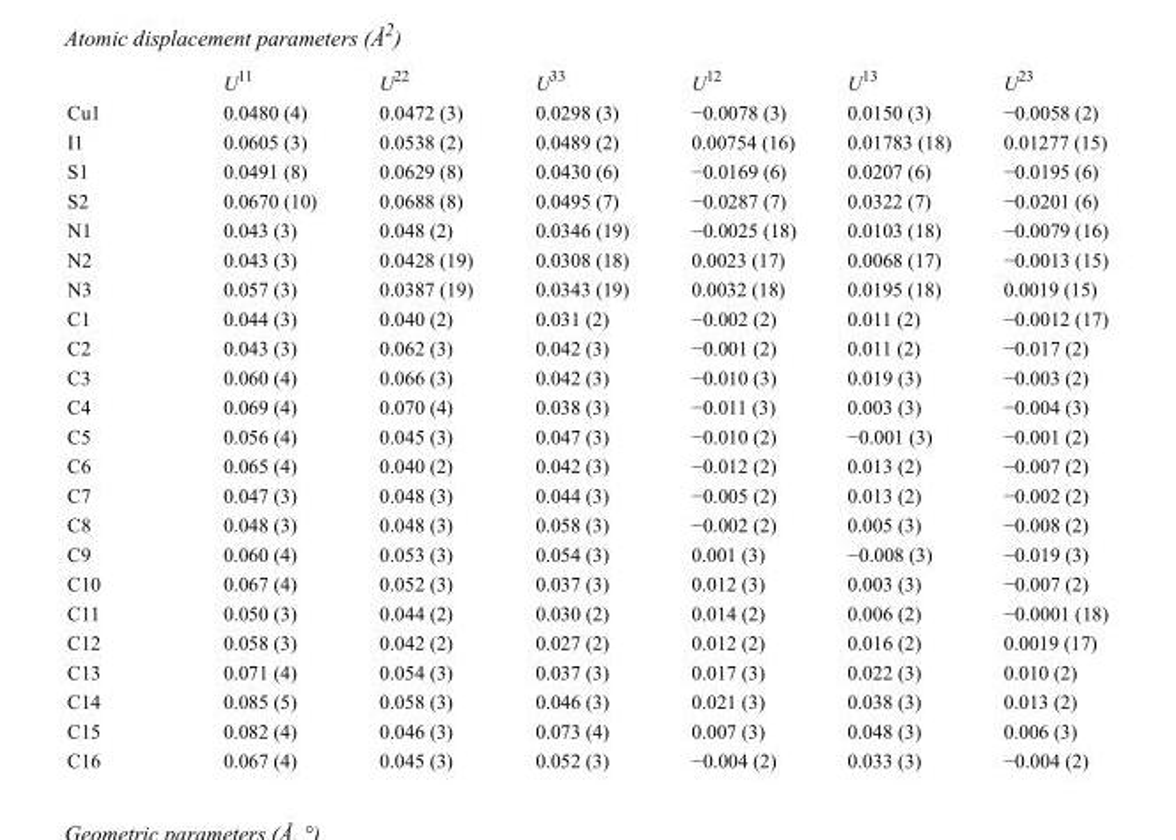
<table><thead><tr><td></td><td>U<sup>11</sup></td><td>U<sup>22</sup></td><td>U<sup>33</sup></td><td>U<sup>12</sup></td><td>U<sup>13</sup></td><td>U<sup>23</sup></td></tr></thead><tbody><tr><td>Cu1</td><td>0.0480 (4)</td><td>0.0472 (3)</td><td>0.0298 (3)</td><td>−0.0078 (3)</td><td>0.0150 (3)</td><td>−0.0058 (2)</td></tr><tr><td>I1</td><td>0.0605 (3)</td><td>0.0538 (2)</td><td>0.0489 (2)</td><td>0.00754 (16)</td><td>0.01783 (18)</td><td>0.01277 (15)</td></tr><tr><td>S1</td><td>0.0491 (8)</td><td>0.0629 (8)</td><td>0.0430 (6)</td><td>−0.0169 (6)</td><td>0.0207 (6)</td><td>−0.0195 (6)</td></tr><tr><td>S2</td><td>0.0670 (10)</td><td>0.0688 (8)</td><td>0.0495 (7)</td><td>−0.0287 (7)</td><td>0.0322 (7)</td><td>−0.0201 (6)</td></tr><tr><td>N1</td><td>0.043 (3)</td><td>0.048 (2)</td><td>0.0346 (19)</td><td>−0.0025 (18)</td><td>0.0103 (18)</td><td>−0.0079 (16)</td></tr><tr><td>N2</td><td>0.043 (3)</td><td>0.0428 (19)</td><td>0.0308 (18)</td><td>0.0023 (17)</td><td>0.0068 (17)</td><td>−0.0013 (15)</td></tr><tr><td>N3</td><td>0.057 (3)</td><td>0.0387 (19)</td><td>0.0343 (19)</td><td>0.0032 (18)</td><td>0.0195 (18)</td><td>0.0019 (15)</td></tr><tr><td>C1</td><td>0.044 (3)</td><td>0.040 (2)</td><td>0.031 (2)</td><td>−0.002 (2)</td><td>0.011 (2)</td><td>−0.0012 (17)</td></tr><tr><td>C2</td><td>0.043 (3)</td><td>0.062 (3)</td><td>0.042 (3)</td><td>−0.001 (2)</td><td>0.011 (2)</td><td>−0.017 (2)</td></tr><tr><td>C3</td><td>0.060 (4)</td><td>0.066 (3)</td><td>0.042 (3)</td><td>−0.010 (3)</td><td>0.019 (3)</td><td>−0.003 (2)</td></tr><tr><td>C4</td><td>0.069 (4)</td><td>0.070 (4)</td><td>0.038 (3)</td><td>−0.011 (3)</td><td>0.003 (3)</td><td>−0.004 (3)</td></tr><tr><td>C5</td><td>0.056 (4)</td><td>0.045 (3)</td><td>0.047 (3)</td><td>−0.010 (2)</td><td>−0.001 (3)</td><td>−0.001 (2)</td></tr><tr><td>C6</td><td>0.065 (4)</td><td>0.040 (2)</td><td>0.042 (3)</td><td>−0.012 (2)</td><td>0.013 (2)</td><td>−0.007 (2)</td></tr><tr><td>C7</td><td>0.047 (3)</td><td>0.048 (3)</td><td>0.044 (3)</td><td>−0.005 (2)</td><td>0.013 (2)</td><td>−0.002 (2)</td></tr><tr><td>C8</td><td>0.048 (3)</td><td>0.048 (3)</td><td>0.058 (3)</td><td>−0.002 (2)</td><td>0.005 (3)</td><td>−0.008 (2)</td></tr><tr><td>C9</td><td>0.060 (4)</td><td>0.053 (3)</td><td>0.054 (3)</td><td>0.001 (3)</td><td>−0.008 (3)</td><td>−0.019 (3)</td></tr><tr><td>C10</td><td>0.067 (4)</td><td>0.052 (3)</td><td>0.037 (3)</td><td>0.012 (3)</td><td>0.003 (3)</td><td>−0.007 (2)</td></tr><tr><td>C11</td><td>0.050 (3)</td><td>0.044 (2)</td><td>0.030 (2)</td><td>0.014 (2)</td><td>0.006 (2)</td><td>−0.0001 (18)</td></tr><tr><td>C12</td><td>0.058 (3)</td><td>0.042 (2)</td><td>0.027 (2)</td><td>0.012 (2)</td><td>0.016 (2)</td><td>0.0019 (17)</td></tr><tr><td>C13</td><td>0.071 (4)</td><td>0.054 (3)</td><td>0.037 (3)</td><td>0.017 (3)</td><td>0.022 (3)</td><td>0.010 (2)</td></tr><tr><td>C14</td><td>0.085 (5)</td><td>0.058 (3)</td><td>0.046 (3)</td><td>0.021 (3)</td><td>0.038 (3)</td><td>0.013 (2)</td></tr><tr><td>C15</td><td>0.082 (4)</td><td>0.046 (3)</td><td>0.073 (4)</td><td>0.007 (3)</td><td>0.048 (3)</td><td>0.006 (3)</td></tr><tr><td>C16</td><td>0.067 (4)</td><td>0.045 (3)</td><td>0.052 (3)</td><td>−0.004 (2)</td><td>0.033 (3)</td><td>−0.004 (2)</td></tr></tbody></table>